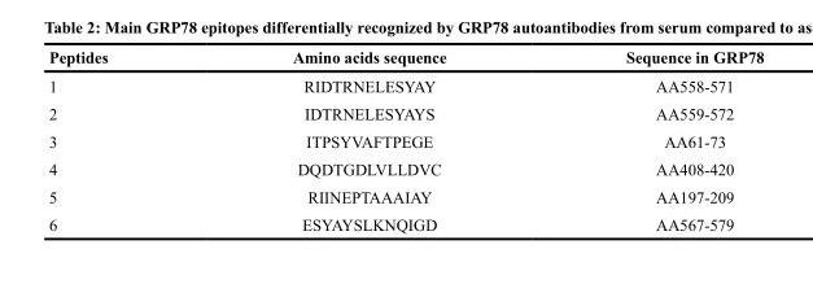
<table><thead><tr><td>Peptides</td><td>Amino acids sequence</td><td>Sequence in GRP78</td></tr></thead><tbody><tr><td>1</td><td>RIDTRNELESYAY</td><td>AA558-571</td></tr><tr><td>2</td><td>IDTRNELESYAYS</td><td>AA559-572</td></tr><tr><td>3</td><td>ITPSYVAFTPEGE</td><td>AA61-73</td></tr><tr><td>4</td><td>DQDTGDLVLLDVC</td><td>AA408-420</td></tr><tr><td>5</td><td>RIINEPTAAAIAY</td><td>AA197-209</td></tr><tr><td>6</td><td>ESYAYSLKNQIGD</td><td>AA567-579</td></tr></tbody></table>